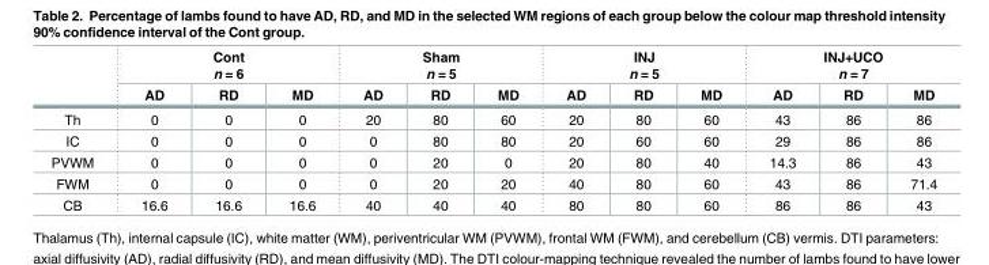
<table><thead><tr><td rowspan="2"></td><td colspan="3">Cont n = 6</td><td colspan="3">Sham n = 5</td><td colspan="3">INJ n = 5</td><td colspan="3">INJ+UCO n = 7</td></tr><tr><td>AD</td><td>RD</td><td>MD</td><td>AD</td><td>RD</td><td>MD</td><td>AD</td><td>RD</td><td>MD</td><td>AD</td><td>RD</td><td>MD</td></tr></thead><tbody><tr><td>Th</td><td>0</td><td>0</td><td>0</td><td>20</td><td>80</td><td>60</td><td>20</td><td>80</td><td>60</td><td>43</td><td>86</td><td>86</td></tr><tr><td>IC</td><td>0</td><td>0</td><td>0</td><td>0</td><td>80</td><td>80</td><td>20</td><td>60</td><td>60</td><td>29</td><td>86</td><td>86</td></tr><tr><td>PVWM</td><td>0</td><td>0</td><td>0</td><td>0</td><td>20</td><td>0</td><td>20</td><td>80</td><td>40</td><td>14.3</td><td>86</td><td>43</td></tr><tr><td>FWM</td><td>0</td><td>0</td><td>0</td><td>0</td><td>20</td><td>20</td><td>40</td><td>80</td><td>60</td><td>43</td><td>86</td><td>71.4</td></tr><tr><td>CB</td><td>16.6</td><td>16.6</td><td>16.6</td><td>40</td><td>40</td><td>40</td><td>80</td><td>80</td><td>60</td><td>86</td><td>86</td><td>43</td></tr></tbody></table>